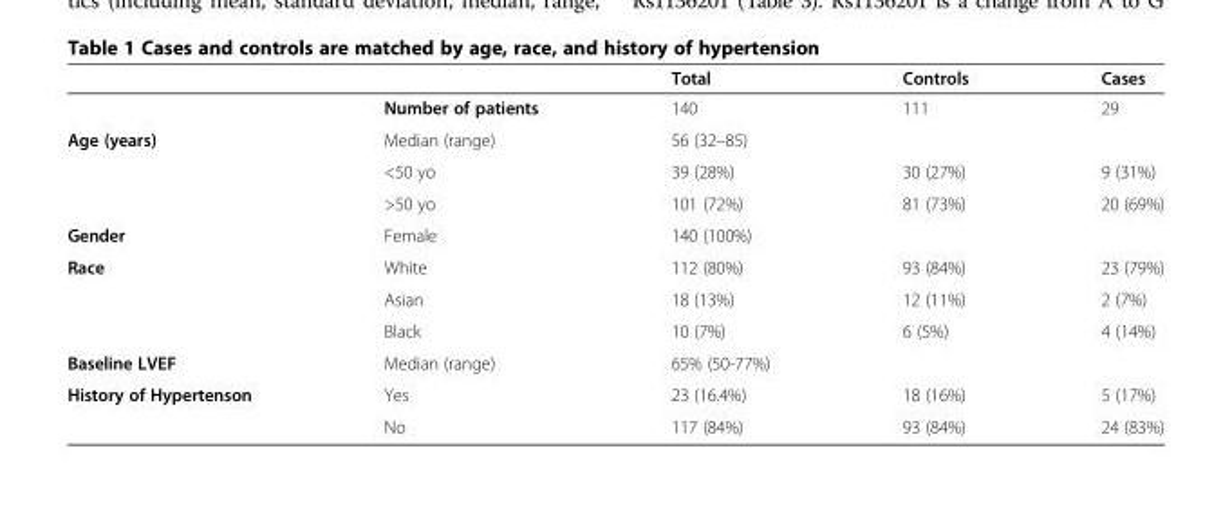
<table><thead><tr><td></td><td></td><td>Total</td><td>Controls</td><td>Cases</td></tr></thead><tbody><tr><td></td><td>Number of patients</td><td>140</td><td>111</td><td>29</td></tr><tr><td rowspan="3">Age (years)</td><td>Median (range)</td><td>56 (32–85)</td><td></td><td></td></tr><tr><td>&lt;50 yo</td><td>39 (28%)</td><td>30 (27%)</td><td>9 (31%)</td></tr><tr><td>&gt;50 yo</td><td>101 (72%)</td><td>81 (73%)</td><td>20 (69%)</td></tr><tr><td>Gender</td><td>Female</td><td>140 (100%)</td><td></td><td></td></tr><tr><td rowspan="3">Race</td><td>White</td><td>112 (80%)</td><td>93 (84%)</td><td>23 (79%)</td></tr><tr><td>Asian</td><td>18 (13%)</td><td>12 (11%)</td><td>2 (7%)</td></tr><tr><td>Black</td><td>10 (7%)</td><td>6 (5%)</td><td>4 (14%)</td></tr><tr><td>Baseline LVEF</td><td>Median (range)</td><td>65% (50-77%)</td><td></td><td></td></tr><tr><td rowspan="2">History of Hypertenson</td><td>Yes</td><td>23 (16.4%)</td><td>18 (16%)</td><td>5 (17%)</td></tr><tr><td>No</td><td>117 (84%)</td><td>93 (84%)</td><td>24 (83%)</td></tr></tbody></table>